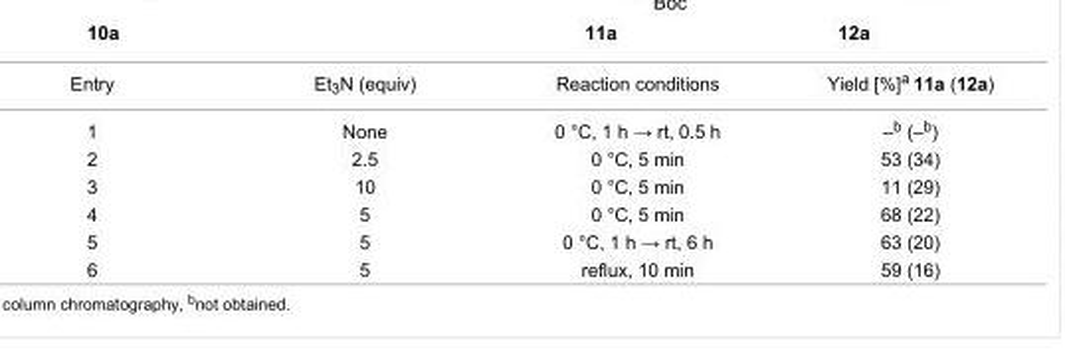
<table><tbody><tr><td>Entry</td><td>Et<sub>3</sub>N (equiv)</td><td>Reaction conditions</td><td>Yield [%]<sup>a</sup> 11a (12a)</td></tr><tr><td>1</td><td>None</td><td>0 °C, 1 h → rt, 0.5 h</td><td>–<sup>b</sup> (–<sup>b</sup>)</td></tr><tr><td>2</td><td>2.5</td><td>0 °C, 5 min</td><td>53 (34)</td></tr><tr><td>3</td><td>10</td><td>0 °C, 5 min</td><td>11 (29)</td></tr><tr><td>4</td><td>5</td><td>0 °C, 5 min</td><td>68 (22)</td></tr><tr><td>5</td><td>5</td><td>0 °C, 1 h → rt, 6 h</td><td>63 (20)</td></tr><tr><td>6</td><td>5</td><td>reflux, 10 min</td><td>59 (16)</td></tr></tbody></table>